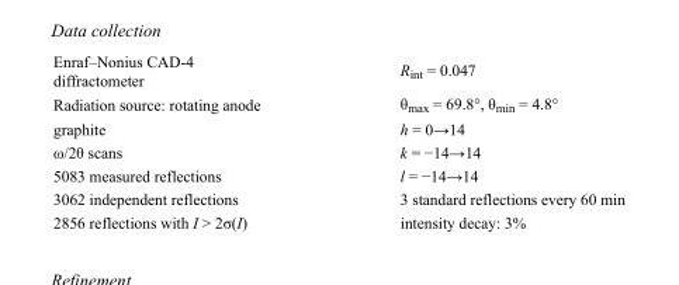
<table><tbody><tr><td>Enraf–Nonius CAD-4 diffractometer</td><td>R<sub>int</sub> = 0.047</td></tr><tr><td>Radiation source: rotating anode</td><td>θ<sub>max</sub> = 69.8°, θ<sub>min</sub> = 4.8°</td></tr><tr><td>graphite</td><td>h = 0→14</td></tr><tr><td>ω/2θ scans</td><td>k = −14→14</td></tr><tr><td>5083 measured reflections</td><td>l = −14→14</td></tr><tr><td>3062 independent reflections</td><td>3 standard reflections every 60 min</td></tr><tr><td>2856 reflections with I &gt; 2σ(I)</td><td>intensity decay: 3%</td></tr></tbody></table>